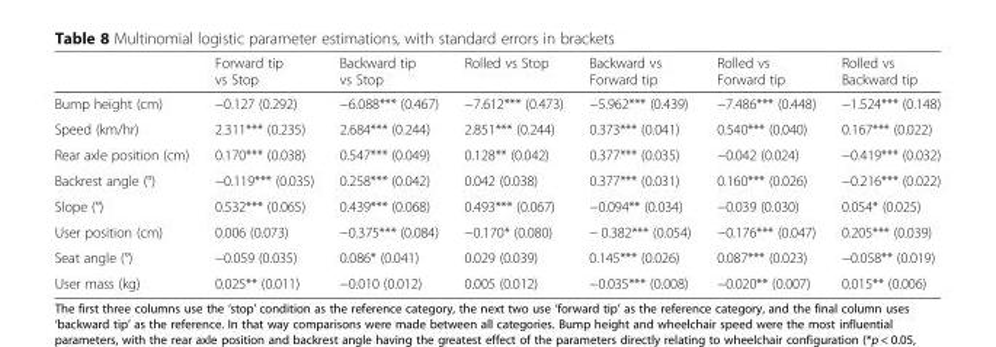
<table><thead><tr><td></td><td>Forward tip vs Stop</td><td>Backward tip vs Stop</td><td>Rolled vs Stop</td><td>Backward vs Forward tip</td><td>Rolled vs Forward tip</td><td>Rolled vs Backward tip</td></tr></thead><tbody><tr><td>Bump height (cm)</td><td>−0.127 (0.292)</td><td>−6.088*** (0.467)</td><td>−7.612*** (0.473)</td><td>−5.962*** (0.439)</td><td>−7.486*** (0.448)</td><td>−1.524*** (0.148)</td></tr><tr><td>Speed (km/hr)</td><td>2.311*** (0.235)</td><td>2.684*** (0.244)</td><td>2.851*** (0.244)</td><td>0.373*** (0.041)</td><td>0.540*** (0.040)</td><td>0.167*** (0.022)</td></tr><tr><td>Rear axle position (cm)</td><td>0.170*** (0.038)</td><td>0.547*** (0.049)</td><td>0.128** (0.042)</td><td>0.377*** (0.035)</td><td>−0.042 (0.024)</td><td>−0.419*** (0.032)</td></tr><tr><td>Backrest angle (°)</td><td>−0.119*** (0.035)</td><td>0.258*** (0.042)</td><td>0.042 (0.038)</td><td>0.377*** (0.031)</td><td>0.160*** (0.026)</td><td>−0.216*** (0.022)</td></tr><tr><td>Slope (°)</td><td>0.532*** (0.065)</td><td>0.439*** (0.068)</td><td>0.493*** (0.067)</td><td>−0.094** (0.034)</td><td>−0.039 (0.030)</td><td>0.054* (0.025)</td></tr><tr><td>User position (cm)</td><td>0.006 (0.073)</td><td>−0.375*** (0.084)</td><td>−0.170* (0.080)</td><td>− 0.382*** (0.054)</td><td>−0.176*** (0.047)</td><td>0.205*** (0.039)</td></tr><tr><td>Seat angle (°)</td><td>−0.059 (0.035)</td><td>0.086* (0.041)</td><td>0.029 (0.039)</td><td>0.145*** (0.026)</td><td>0.087*** (0.023)</td><td>−0.058** (0.019)</td></tr><tr><td>User mass (kg)</td><td>0.025** (0.011)</td><td>−0.010 (0.012)</td><td>0.005 (0.012)</td><td>−0.035*** (0.008)</td><td>−0.020** (0.007)</td><td>0.015** (0.006)</td></tr></tbody></table>